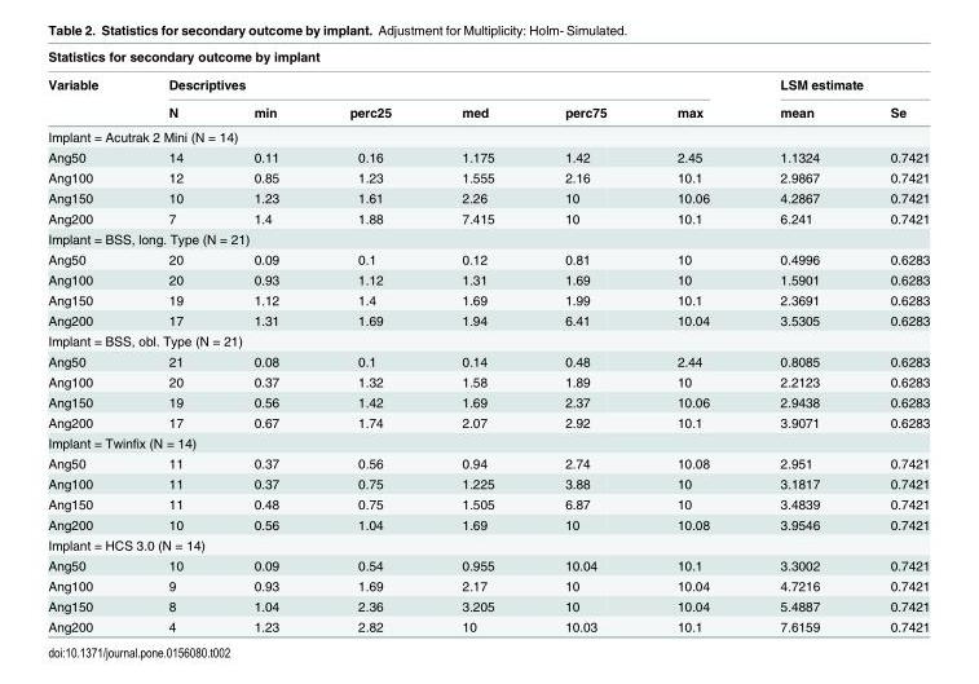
<table><thead><tr><td colspan="9">Statistics for secondary outcome by implant</td></tr><tr><td rowspan="2">Variable</td><td colspan="6">Descriptives</td><td colspan="2">LSM estimate</td></tr><tr><td>N</td><td>min</td><td>perc25</td><td>med</td><td>perc75</td><td>max</td><td>mean</td><td>Se</td></tr></thead><tbody><tr><td colspan="9">Implant = Acutrak 2 Mini (N = 14)</td></tr><tr><td>Ang50</td><td>14</td><td>0.11</td><td>0.16</td><td>1.175</td><td>1.42</td><td>2.45</td><td>1.1324</td><td>0.7421</td></tr><tr><td>Ang100</td><td>12</td><td>0.85</td><td>1.23</td><td>1.555</td><td>2.16</td><td>10.1</td><td>2.9867</td><td>0.7421</td></tr><tr><td>Ang150</td><td>10</td><td>1.23</td><td>1.61</td><td>2.26</td><td>10</td><td>10.06</td><td>4.2867</td><td>0.7421</td></tr><tr><td>Ang200</td><td>7</td><td>1.4</td><td>1.88</td><td>7.415</td><td>10</td><td>10.1</td><td>6.241</td><td>0.7421</td></tr><tr><td colspan="9">Implant = BSS, long. Type (N = 21)</td></tr><tr><td>Ang50</td><td>20</td><td>0.09</td><td>0.1</td><td>0.12</td><td>0.81</td><td>10</td><td>0.4996</td><td>0.6283</td></tr><tr><td>Ang100</td><td>20</td><td>0.93</td><td>1.12</td><td>1.31</td><td>1.69</td><td>10</td><td>1.5901</td><td>0.6283</td></tr><tr><td>Ang150</td><td>19</td><td>1.12</td><td>1.4</td><td>1.69</td><td>1.99</td><td>10.1</td><td>2.3691</td><td>0.6283</td></tr><tr><td>Ang200</td><td>17</td><td>1.31</td><td>1.69</td><td>1.94</td><td>6.41</td><td>10.04</td><td>3.5305</td><td>0.6283</td></tr><tr><td colspan="9">Implant = BSS, obl. Type (N = 21)</td></tr><tr><td>Ang50</td><td>21</td><td>0.08</td><td>0.1</td><td>0.14</td><td>0.48</td><td>2.44</td><td>0.8085</td><td>0.6283</td></tr><tr><td>Ang100</td><td>20</td><td>0.37</td><td>1.32</td><td>1.58</td><td>1.89</td><td>10</td><td>2.2123</td><td>0.6283</td></tr><tr><td>Ang150</td><td>19</td><td>0.56</td><td>1.42</td><td>1.69</td><td>2.37</td><td>10.06</td><td>2.9438</td><td>0.6283</td></tr><tr><td>Ang200</td><td>17</td><td>0.67</td><td>1.74</td><td>2.07</td><td>2.92</td><td>10.1</td><td>3.9071</td><td>0.6283</td></tr><tr><td colspan="9">Implant = Twinfix (N = 14)</td></tr><tr><td>Ang50</td><td>11</td><td>0.37</td><td>0.56</td><td>0.94</td><td>2.74</td><td>10.08</td><td>2.951</td><td>0.7421</td></tr><tr><td>Ang100</td><td>11</td><td>0.37</td><td>0.75</td><td>1.225</td><td>3.88</td><td>10</td><td>3.1817</td><td>0.7421</td></tr><tr><td>Ang150</td><td>11</td><td>0.48</td><td>0.75</td><td>1.505</td><td>6.87</td><td>10</td><td>3.4839</td><td>0.7421</td></tr><tr><td>Ang200</td><td>10</td><td>0.56</td><td>1.04</td><td>1.69</td><td>10</td><td>10.08</td><td>3.9546</td><td>0.7421</td></tr><tr><td colspan="9">Implant = HCS 3.0 (N = 14)</td></tr><tr><td>Ang50</td><td>10</td><td>0.09</td><td>0.54</td><td>0.955</td><td>10.04</td><td>10.1</td><td>3.3002</td><td>0.7421</td></tr><tr><td>Ang100</td><td>9</td><td>0.93</td><td>1.69</td><td>2.17</td><td>10</td><td>10.04</td><td>4.7216</td><td>0.7421</td></tr><tr><td>Ang150</td><td>8</td><td>1.04</td><td>2.36</td><td>3.205</td><td>10</td><td>10.04</td><td>5.4887</td><td>0.7421</td></tr><tr><td>Ang200</td><td>4</td><td>1.23</td><td>2.82</td><td>10</td><td>10.03</td><td>10.1</td><td>7.6159</td><td>0.7421</td></tr></tbody></table>